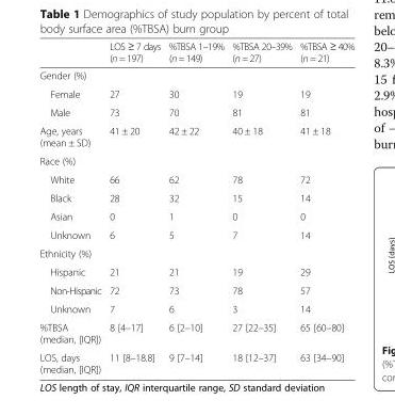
<table><thead><tr><td></td><td>LOS ≥ 7 days (n = 197)</td><td>%TBSA 1–19% (n = 149)</td><td>%TBSA 20–39% (n = 27)</td><td>%TBSA ≥ 40% (n = 21)</td></tr></thead><tbody><tr><td colspan="5">Gender (%)</td></tr><tr><td>Female</td><td>27</td><td>30</td><td>19</td><td>19</td></tr><tr><td>Male</td><td>73</td><td>70</td><td>81</td><td>81</td></tr><tr><td>Age, years (mean ± SD)</td><td>41 ± 20</td><td>42 ± 22</td><td>40 ± 18</td><td>41 ± 18</td></tr><tr><td colspan="5">Race (%)</td></tr><tr><td>White</td><td>66</td><td>62</td><td>78</td><td>72</td></tr><tr><td>Black</td><td>28</td><td>32</td><td>15</td><td>14</td></tr><tr><td>Asian</td><td>0</td><td>1</td><td>0</td><td>0</td></tr><tr><td>Unknown</td><td>6</td><td>5</td><td>7</td><td>14</td></tr><tr><td colspan="5">Ethnicity (%)</td></tr><tr><td>Hispanic</td><td>21</td><td>21</td><td>19</td><td>29</td></tr><tr><td>Non-Hispanic</td><td>72</td><td>73</td><td>78</td><td>57</td></tr><tr><td>Unknown</td><td>7</td><td>6</td><td>3</td><td>14</td></tr><tr><td>%TBSA (median, [IQR])</td><td>8 [4–17]</td><td>6 [2–10]</td><td>27 [22–35]</td><td>65 [60–80]</td></tr><tr><td>LOS, days (median, [IQR])</td><td>11 [8–18.8]</td><td>9 [7–14]</td><td>18 [12–37]</td><td>63 [34–90]</td></tr></tbody></table>